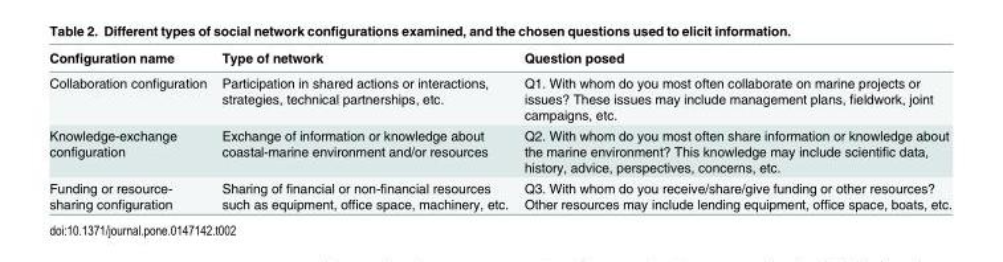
<table><thead><tr><td>Configuration name</td><td>Type of network</td><td>Question posed</td></tr></thead><tbody><tr><td>Collaboration configuration</td><td>Participation in shared actions or interactions, strategies, technical partnerships, etc.</td><td>Q1. With whom do you most often collaborate on marine projects or issues? These issues may include management plans, fieldwork, joint campaigns, etc.</td></tr><tr><td>Knowledge-exchange configuration</td><td>Exchange of information or knowledge about coastal-marine environment and/or resources</td><td>Q2. With whom do you most often share information or knowledge about the marine environment? This knowledge may include scientific data, history, advice, perspectives, concerns, etc.</td></tr><tr><td>Funding or resource- sharing configuration</td><td>Sharing of financial or non-financial resources such as equipment, office space, machinery, etc.</td><td>Q3. With whom do you receive/share/give funding or other resources? Other resources may include lending equipment, office space, boats, etc.</td></tr></tbody></table>